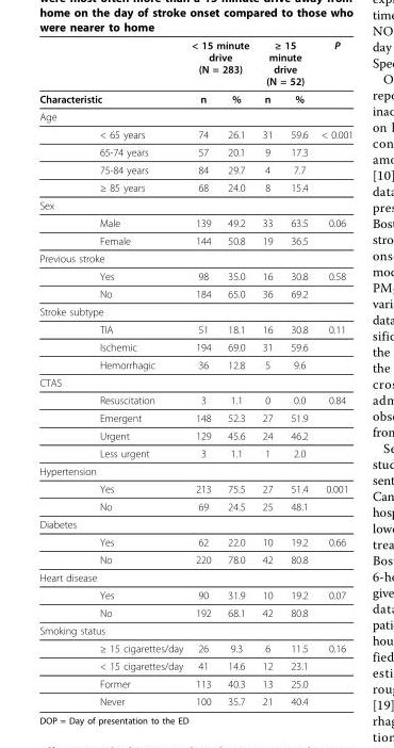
<table><thead><tr><td rowspan="2">Characteristic</td><td colspan="2">&lt; 15 minute drive (N = 283)</td><td colspan="2">≥ 15 minute drive (N = 52)</td><td rowspan="2">P</td></tr><tr><td>n</td><td>%</td><td>n</td><td>%</td></tr></thead><tbody><tr><td colspan="6">Age</td></tr><tr><td>&lt; 65 years</td><td>74</td><td>26.1</td><td>31</td><td>59.6</td><td>&lt; 0.001</td></tr><tr><td>65-74 years</td><td>57</td><td>20.1</td><td>9</td><td>17.3</td><td></td></tr><tr><td>75-84 years</td><td>84</td><td>29.7</td><td>4</td><td>7.7</td><td></td></tr><tr><td>≥ 85 years</td><td>68</td><td>24.0</td><td>8</td><td>15.4</td><td></td></tr><tr><td colspan="6">Sex</td></tr><tr><td>Male</td><td>139</td><td>49.2</td><td>33</td><td>63.5</td><td>0.06</td></tr><tr><td>Female</td><td>144</td><td>50.8</td><td>19</td><td>36.5</td><td></td></tr><tr><td colspan="6">Previous stroke</td></tr><tr><td>Yes</td><td>98</td><td>35.0</td><td>16</td><td>30.8</td><td>0.58</td></tr><tr><td>No</td><td>184</td><td>65.0</td><td>36</td><td>69.2</td><td></td></tr><tr><td colspan="6">Stroke subtype</td></tr><tr><td>TIA</td><td>51</td><td>18.1</td><td>16</td><td>30.8</td><td>0.11</td></tr><tr><td>Ischemic</td><td>194</td><td>69.0</td><td>31</td><td>59.6</td><td></td></tr><tr><td>Hemorrhagic</td><td>36</td><td>12.8</td><td>5</td><td>9.6</td><td></td></tr><tr><td colspan="6">CTAS</td></tr><tr><td>Resuscitation</td><td>3</td><td>1.1</td><td>0</td><td>0.0</td><td>0.84</td></tr><tr><td>Emergent</td><td>148</td><td>52.3</td><td>27</td><td>51.9</td><td></td></tr><tr><td>Urgent</td><td>129</td><td>45.6</td><td>24</td><td>46.2</td><td></td></tr><tr><td>Less urgent</td><td>3</td><td>1.1</td><td>1</td><td>2.0</td><td></td></tr><tr><td colspan="6">Hypertension</td></tr><tr><td>Yes</td><td>213</td><td>75.5</td><td>27</td><td>51.4</td><td>0.001</td></tr><tr><td>No</td><td>69</td><td>24.5</td><td>25</td><td>48.1</td><td></td></tr><tr><td colspan="6">Diabetes</td></tr><tr><td>Yes</td><td>62</td><td>22.0</td><td>10</td><td>19.2</td><td>0.66</td></tr><tr><td>No</td><td>220</td><td>78.0</td><td>42</td><td>80.8</td><td></td></tr><tr><td colspan="6">Heart disease</td></tr><tr><td>Yes</td><td>90</td><td>31.9</td><td>10</td><td>19.2</td><td>0.07</td></tr><tr><td>No</td><td>192</td><td>68.1</td><td>42</td><td>80.8</td><td></td></tr><tr><td colspan="6">Smoking status</td></tr><tr><td>≥ 15 cigarettes/day</td><td>26</td><td>9.3</td><td>6</td><td>11.5</td><td>0.16</td></tr><tr><td>&lt; 15 cigarettes/day</td><td>41</td><td>14.6</td><td>12</td><td>23.1</td><td></td></tr><tr><td>Former</td><td>113</td><td>40.3</td><td>13</td><td>25.0</td><td></td></tr><tr><td>Never</td><td>100</td><td>35.7</td><td>21</td><td>40.4</td><td></td></tr></tbody></table>